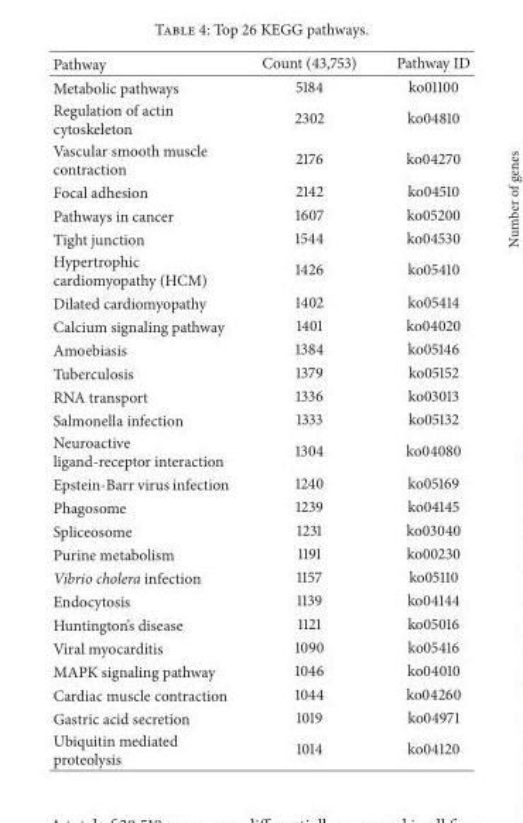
<table><thead><tr><td>Pathway</td><td>Count (43,753)</td><td>Pathway ID</td></tr></thead><tbody><tr><td>Metabolic pathways</td><td>5184</td><td>ko01100</td></tr><tr><td>Regulation of actin cytoskeleton</td><td>2302</td><td>ko04810</td></tr><tr><td>Vascular smooth muscle contraction</td><td>2176</td><td>ko04270</td></tr><tr><td>Focal adhesion</td><td>2142</td><td>ko04510</td></tr><tr><td>Pathways in cancer</td><td>1607</td><td>ko05200</td></tr><tr><td>Tight junction</td><td>1544</td><td>ko04530</td></tr><tr><td>Hypertrophic cardiomyopathy (HCM)</td><td>1426</td><td>ko05410</td></tr><tr><td>Dilated cardiomyopathy</td><td>1402</td><td>ko05414</td></tr><tr><td>Calcium signaling pathway</td><td>1401</td><td>ko04020</td></tr><tr><td>Amoebiasis</td><td>1384</td><td>ko05146</td></tr><tr><td>Tuberculosis</td><td>1379</td><td>ko05152</td></tr><tr><td>RNA transport</td><td>1336</td><td>ko03013</td></tr><tr><td>Salmonella infection</td><td>1333</td><td>ko05132</td></tr><tr><td>Neuroactive ligand-receptor interaction</td><td>1304</td><td>ko04080</td></tr><tr><td>Epstein-Barr virus infection</td><td>1240</td><td>ko05169</td></tr><tr><td>Phagosome</td><td>1239</td><td>ko04145</td></tr><tr><td>Spliceosome</td><td>1231</td><td>ko03040</td></tr><tr><td>Purine metabolism</td><td>1191</td><td>ko00230</td></tr><tr><td>Vibrio cholera infection</td><td>1157</td><td>ko05110</td></tr><tr><td>Endocytosis</td><td>1139</td><td>ko04144</td></tr><tr><td>Huntington’s disease</td><td>1121</td><td>ko05016</td></tr><tr><td>Viral myocarditis</td><td>1090</td><td>ko05416</td></tr><tr><td>MAPK signaling pathway</td><td>1046</td><td>ko04010</td></tr><tr><td>Cardiac muscle contraction</td><td>1044</td><td>ko04260</td></tr><tr><td>Gastric acid secretion</td><td>1019</td><td>ko04971</td></tr><tr><td>Ubiquitin mediated proteolysis</td><td>1014</td><td>ko04120</td></tr></tbody></table>